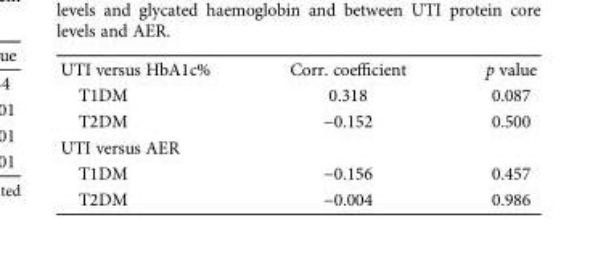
<table><tbody><tr><td>UTI versus HbA1c%</td><td>Corr. coefficient</td><td>p value</td></tr><tr><td>T1DM</td><td>0.318</td><td>0.087</td></tr><tr><td>T2DM</td><td>−0.152</td><td>0.500</td></tr><tr><td colspan="3">UTI versus AER</td></tr><tr><td>T1DM</td><td>−0.156</td><td>0.457</td></tr><tr><td>T2DM</td><td>−0.004</td><td>0.986</td></tr></tbody></table>